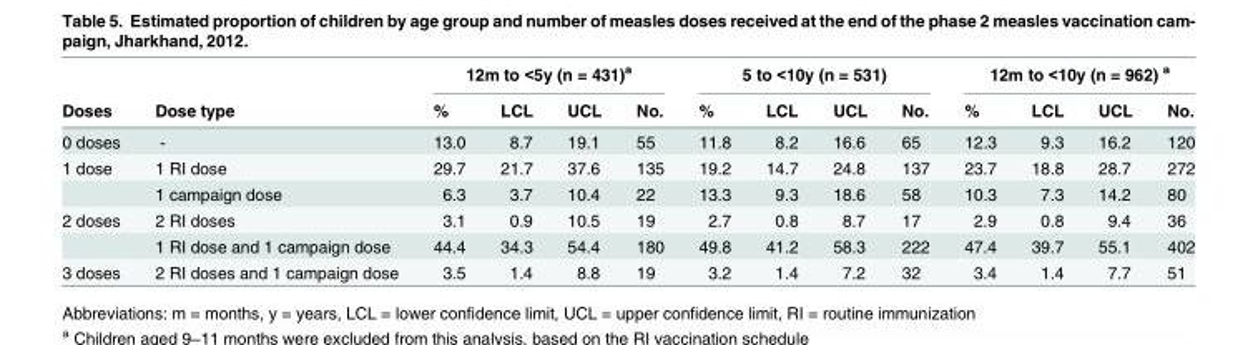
<table><thead><tr><td rowspan="2">Doses</td><td rowspan="2">Dose type</td><td colspan="4">12m to &lt;5y (n = 431)<sup>a</sup></td><td colspan="4">5 to &lt;10y (n = 531)</td><td colspan="4">12m to &lt;10y (n = 962) <sup>a</sup></td></tr><tr><td>%</td><td>LCL</td><td>UCL</td><td>No.</td><td>%</td><td>LCL</td><td>UCL</td><td>No.</td><td>%</td><td>LCL</td><td>UCL</td><td>No.</td></tr></thead><tbody><tr><td>0 doses</td><td>-</td><td>13.0</td><td>8.7</td><td>19.1</td><td>55</td><td>11.8</td><td>8.2</td><td>16.6</td><td>65</td><td>12.3</td><td>9.3</td><td>16.2</td><td>120</td></tr><tr><td rowspan="2">1 dose</td><td>1 RI dose</td><td>29.7</td><td>21.7</td><td>37.6</td><td>135</td><td>19.2</td><td>14.7</td><td>24.8</td><td>137</td><td>23.7</td><td>18.8</td><td>28.7</td><td>272</td></tr><tr><td>1 campaign dose</td><td>6.3</td><td>3.7</td><td>10.4</td><td>22</td><td>13.3</td><td>9.3</td><td>18.6</td><td>58</td><td>10.3</td><td>7.3</td><td>14.2</td><td>80</td></tr><tr><td rowspan="2">2 doses</td><td>2 RI doses</td><td>3.1</td><td>0.9</td><td>10.5</td><td>19</td><td>2.7</td><td>0.8</td><td>8.7</td><td>17</td><td>2.9</td><td>0.8</td><td>9.4</td><td>36</td></tr><tr><td>1 RI dose and 1 campaign dose</td><td>44.4</td><td>34.3</td><td>54.4</td><td>180</td><td>49.8</td><td>41.2</td><td>58.3</td><td>222</td><td>47.4</td><td>39.7</td><td>55.1</td><td>402</td></tr><tr><td>3 doses</td><td>2 RI doses and 1 campaign dose</td><td>3.5</td><td>1.4</td><td>8.8</td><td>19</td><td>3.2</td><td>1.4</td><td>7.2</td><td>32</td><td>3.4</td><td>1.4</td><td>7.7</td><td>51</td></tr></tbody></table>